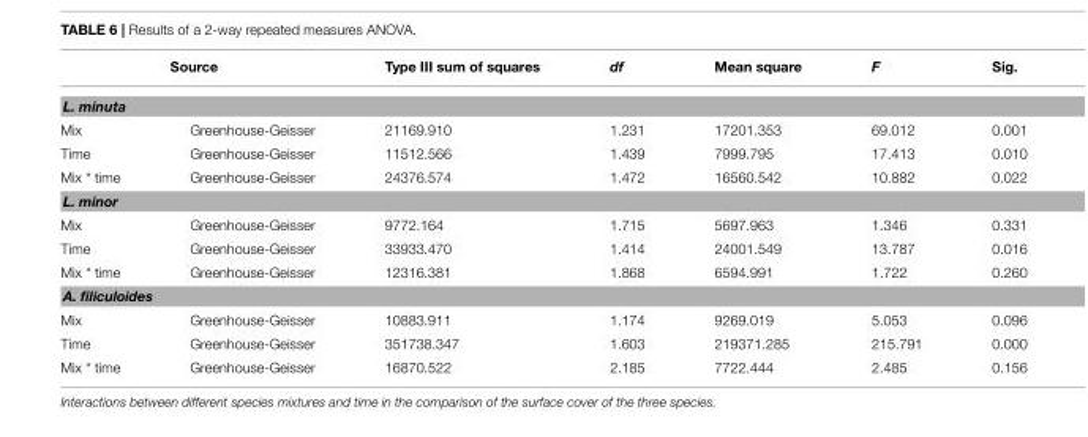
<table><thead><tr><td colspan="2">Source</td><td>Type III sum of squares</td><td>df</td><td>Mean square</td><td>F</td><td>Sig.</td></tr><tr><td colspan="7">L. minuta</td></tr><tr><td>Mix</td><td>Greenhouse-Geisser</td><td>21169.910</td><td>1.231</td><td>17201.353</td><td>69.012</td><td>0.001</td></tr></thead><tbody><tr><td>Time</td><td>Greenhouse-Geisser</td><td>11512.566</td><td>1.439</td><td>7999.795</td><td>17.413</td><td>0.010</td></tr><tr><td>Mix * time</td><td>Greenhouse-Geisser</td><td>24376.574</td><td>1.472</td><td>16560.542</td><td>10.882</td><td>0.022</td></tr><tr><td colspan="7">L. minor</td></tr><tr><td>Mix</td><td>Greenhouse-Geisser</td><td>9772.164</td><td>1.715</td><td>5697.963</td><td>1.346</td><td>0.331</td></tr><tr><td>Time</td><td>Greenhouse-Geisser</td><td>33933.470</td><td>1.414</td><td>24001.549</td><td>13.787</td><td>0.016</td></tr><tr><td>Mix * time</td><td>Greenhouse-Geisser</td><td>12316.381</td><td>1.868</td><td>6594.991</td><td>1.722</td><td>0.260</td></tr><tr><td colspan="7">A. filiculoides</td></tr><tr><td>Mix</td><td>Greenhouse-Geisser</td><td>10883.911</td><td>1.174</td><td>9269.019</td><td>5.053</td><td>0.096</td></tr><tr><td>Time</td><td>Greenhouse-Geisser</td><td>351738.347</td><td>1.603</td><td>219371.285</td><td>215.791</td><td>0.000</td></tr><tr><td>Mix * time</td><td>Greenhouse-Geisser</td><td>16870.522</td><td>2.185</td><td>7722.444</td><td>2.485</td><td>0.156</td></tr></tbody></table>